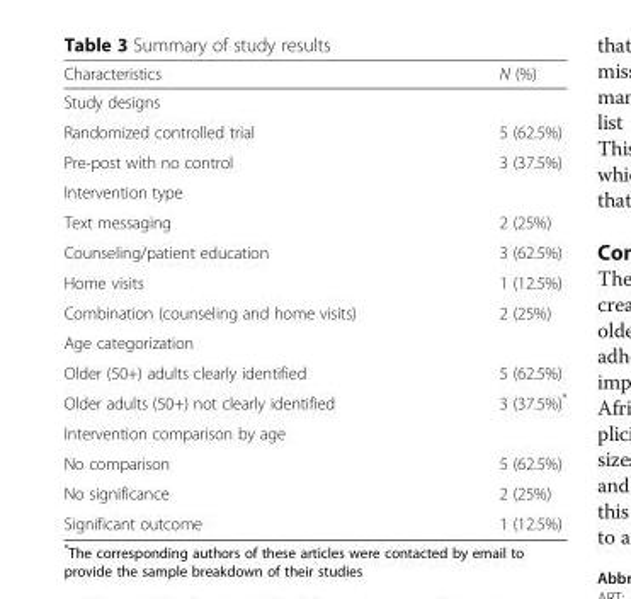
<table><thead><tr><td>Characteristics</td><td>N (%)</td></tr></thead><tbody><tr><td colspan="2">Study designs</td></tr><tr><td>Randomized controlled trial</td><td>5 (62.5%)</td></tr><tr><td>Pre-post with no control</td><td>3 (37.5%)</td></tr><tr><td colspan="2">Intervention type</td></tr><tr><td>Text messaging</td><td>2 (25%)</td></tr><tr><td>Counseling/patient education</td><td>3 (62.5%)</td></tr><tr><td>Home visits</td><td>1 (12.5%)</td></tr><tr><td>Combination (counseling and home visits)</td><td>2 (25%)</td></tr><tr><td colspan="2">Age categorization</td></tr><tr><td>Older (50+) adults clearly identified</td><td>5 (62.5%)</td></tr><tr><td>Older adults (50+) not clearly identified</td><td>3 (37.5%)*</td></tr><tr><td colspan="2">Intervention comparison by age</td></tr><tr><td>No comparison</td><td>5 (62.5%)</td></tr><tr><td>No significance</td><td>2 (25%)</td></tr><tr><td>Significant outcome</td><td>1 (12.5%)</td></tr></tbody></table>